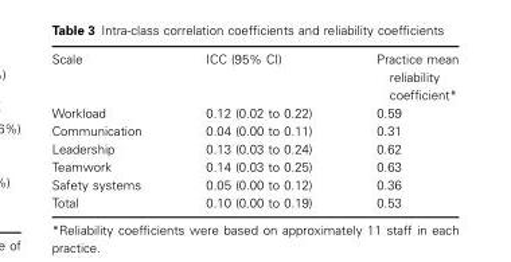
<table><tbody><tr><td>Scale</td><td>ICC (95% CI)</td><td>Practice mean reliability coefficient*</td></tr><tr><td>Workload</td><td>0.12 (0.02 to 0.22)</td><td>0.59</td></tr><tr><td>Communication</td><td>0.04 (0.00 to 0.11)</td><td>0.31</td></tr><tr><td>Leadership</td><td>0.13 (0.03 to 0.24)</td><td>0.62</td></tr><tr><td>Teamwork</td><td>0.14 (0.03 to 0.25)</td><td>0.63</td></tr><tr><td>Safety systems</td><td>0.05 (0.00 to 0.12)</td><td>0.36</td></tr><tr><td>Total</td><td>0.10 (0.00 to 0.19)</td><td>0.53</td></tr></tbody></table>